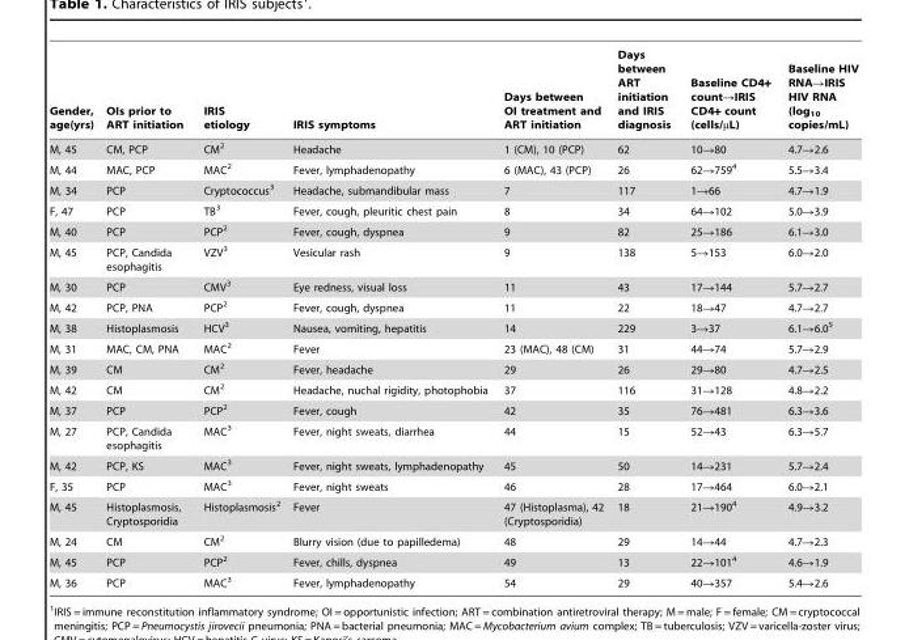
<table><thead><tr><td>Gender, age(yrs)</td><td>OIs prior to ART initiation</td><td>IRIS etiology</td><td>IRIS symptoms</td><td>Days between OI treatment and ART initiation</td><td>Days between ART initiation and IRIS diagnosis</td><td>Baseline CD4+ count→IRIS CD4+ count (cells/µL)</td><td>Baseline HIV RNA→IRIS HIV RNA (log<sub>10</sub> copies/mL)</td></tr></thead><tbody><tr><td>M, 45</td><td>CM, PCP</td><td>CM<sup>2</sup></td><td>Headache</td><td>1 (CM), 10 (PCP)</td><td>62</td><td>10→80</td><td>4.7→2.6</td></tr><tr><td>M, 44</td><td>MAC, PCP</td><td>MAC<sup>2</sup></td><td>Fever, lymphadenopathy</td><td>6 (MAC), 43 (PCP)</td><td>26</td><td>62→759<sup>4</sup></td><td>5.5→3.4</td></tr><tr><td>M, 34</td><td>PCP</td><td>Cryptococcus<sup>3</sup></td><td>Headache, submandibular mass</td><td>7</td><td>117</td><td>1→66</td><td>4.7→1.9</td></tr><tr><td>F, 47</td><td>PCP</td><td>TB<sup>3</sup></td><td>Fever, cough, pleuritic chest pain</td><td>8</td><td>34</td><td>64→102</td><td>5.0→3.9</td></tr><tr><td>M, 40</td><td>PCP</td><td>PCP<sup>2</sup></td><td>Fever, cough, dyspnea</td><td>9</td><td>82</td><td>25→186</td><td>6.1→3.0</td></tr><tr><td>M, 45</td><td>PCP, Candida esophagitis</td><td>VZV<sup>3</sup></td><td>Vesicular rash</td><td>9</td><td>138</td><td>5→153</td><td>6.0→2.0</td></tr><tr><td>M, 30</td><td>PCP</td><td>CMV<sup>3</sup></td><td>Eye redness, visual loss</td><td>11</td><td>43</td><td>17→144</td><td>5.7→2.7</td></tr><tr><td>M, 42</td><td>PCP, PNA</td><td>PCP<sup>2</sup></td><td>Fever, cough, dyspnea</td><td>11</td><td>22</td><td>18→47</td><td>4.7→2.7</td></tr><tr><td>M, 38</td><td>Histoplasmosis</td><td>HCV<sup>3</sup></td><td>Nausea, vomiting, hepatitis</td><td>14</td><td>229</td><td>3→37</td><td>6.1→6.0<sup>5</sup></td></tr><tr><td>M, 31</td><td>MAC, CM, PNA</td><td>MAC<sup>2</sup></td><td>Fever</td><td>23 (MAC), 48 (CM)</td><td>31</td><td>44→74</td><td>5.7→2.9</td></tr><tr><td>M, 39</td><td>CM</td><td>CM<sup>2</sup></td><td>Fever, headache</td><td>29</td><td>26</td><td>29→80</td><td>4.7→2.5</td></tr><tr><td>M, 42</td><td>CM</td><td>CM<sup>2</sup></td><td>Headache, nuchal rigidity, photophobia</td><td>37</td><td>116</td><td>31→128</td><td>4.8→2.2</td></tr><tr><td>M, 37</td><td>PCP</td><td>PCP<sup>2</sup></td><td>Fever, cough</td><td>42</td><td>35</td><td>76→481</td><td>6.3→3.6</td></tr><tr><td>M, 27</td><td>PCP, Candida esophagitis</td><td>MAC<sup>3</sup></td><td>Fever, night sweats, diarrhea</td><td>44</td><td>15</td><td>52→43</td><td>6.3→5.7</td></tr><tr><td>M, 42</td><td>PCP, KS</td><td>MAC<sup>3</sup></td><td>Fever, night sweats, lymphadenopathy</td><td>45</td><td>50</td><td>14→231</td><td>5.7→2.4</td></tr><tr><td>F, 35</td><td>PCP</td><td>MAC<sup>3</sup></td><td>Fever, night sweats</td><td>46</td><td>28</td><td>17→464</td><td>6.0→2.1</td></tr><tr><td>M, 45</td><td>Histoplasmosis, Cryptosporidia</td><td>Histoplasmosis<sup>2</sup></td><td>Fever</td><td>47 (Histoplasma), 42 (Cryptosporidia)</td><td>18</td><td>21→190<sup>4</sup></td><td>4.9→3.2</td></tr><tr><td>M, 24</td><td>CM</td><td>CM<sup>2</sup></td><td>Blurry vision (due to papilledema)</td><td>48</td><td>29</td><td>14→44</td><td>4.7→2.3</td></tr><tr><td>M, 45</td><td>PCP</td><td>PCP<sup>2</sup></td><td>Fever, chills, dyspnea</td><td>49</td><td>13</td><td>22→101<sup>4</sup></td><td>4.6→1.9</td></tr><tr><td>M, 36</td><td>PCP</td><td>MAC<sup>3</sup></td><td>Fever, lymphadenopathy</td><td>54</td><td>29</td><td>40→357</td><td>5.4→2.6</td></tr></tbody></table>